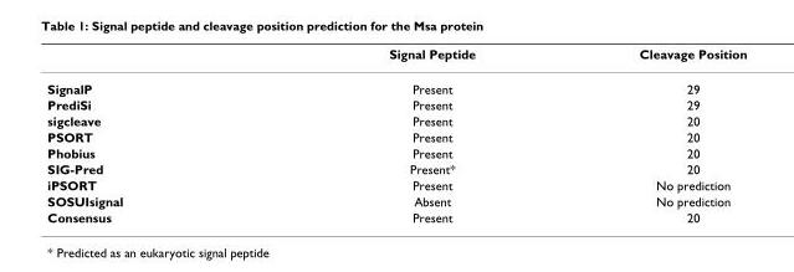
<table><thead><tr><td></td><td>Signal Peptide</td><td>Cleavage Position</td></tr></thead><tbody><tr><td>SignalP</td><td>Present</td><td>29</td></tr><tr><td>PrediSi</td><td>Present</td><td>29</td></tr><tr><td>sigcleave</td><td>Present</td><td>20</td></tr><tr><td>PSORT</td><td>Present</td><td>20</td></tr><tr><td>Phobius</td><td>Present</td><td>20</td></tr><tr><td>SIG-Pred</td><td>Present*</td><td>20</td></tr><tr><td>iPSORT</td><td>Present</td><td>No prediction</td></tr><tr><td>SOSUIsignal</td><td>Absent</td><td>No prediction</td></tr><tr><td>Consensus</td><td>Present</td><td>20</td></tr></tbody></table>